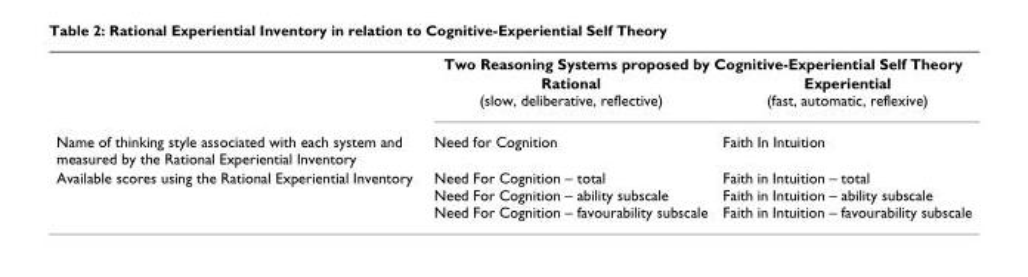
<table><thead><tr><td rowspan="2"></td><td colspan="2">Two Reasoning Systems proposed by Cognitive-Experiential Self Theory</td></tr><tr><td>Rational (slow, deliberative, reflective)</td><td>Experiential (fast, automatic, reflexive)</td></tr></thead><tbody><tr><td>Name of thinking style associated with each system and measured by the Rational Experiential Inventory</td><td>Need for Cognition</td><td>Faith In Intuition</td></tr><tr><td>Available scores using the Rational Experiential Inventory</td><td>Need For Cognition – total Need For Cognition – ability subscale Need For Cognition – favourability subscale</td><td>Faith in Intuition – total Faith in Intuition – ability subscale Faith in Intuition – favourability subscale</td></tr></tbody></table>